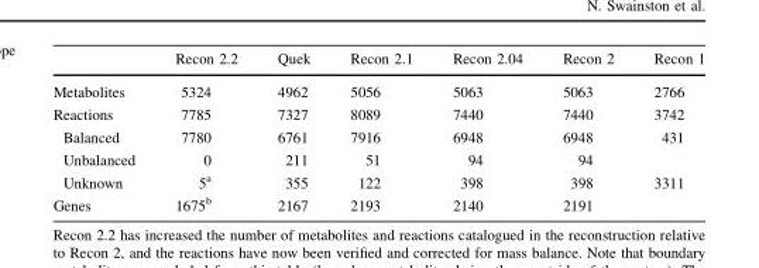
<table><thead><tr><td></td><td>Recon 2.2</td><td>Quek</td><td>Recon 2.1</td><td>Recon 2.04</td><td>Recon 2</td><td>Recon 1</td></tr></thead><tbody><tr><td>Metabolites</td><td>5324</td><td>4962</td><td>5056</td><td>5063</td><td>5063</td><td>2766</td></tr><tr><td>Reactions</td><td>7785</td><td>7327</td><td>8089</td><td>7440</td><td>7440</td><td>3742</td></tr><tr><td>Balanced</td><td>7780</td><td>6761</td><td>7916</td><td>6948</td><td>6948</td><td>431</td></tr><tr><td>Unbalanced</td><td>0</td><td>211</td><td>51</td><td>94</td><td>94</td><td></td></tr><tr><td>Unknown</td><td>5<sup>a</sup></td><td>355</td><td>122</td><td>398</td><td>398</td><td>3311</td></tr><tr><td>Genes</td><td>1675<sup>b</sup></td><td>2167</td><td>2193</td><td>2140</td><td>2191</td><td></td></tr></tbody></table>